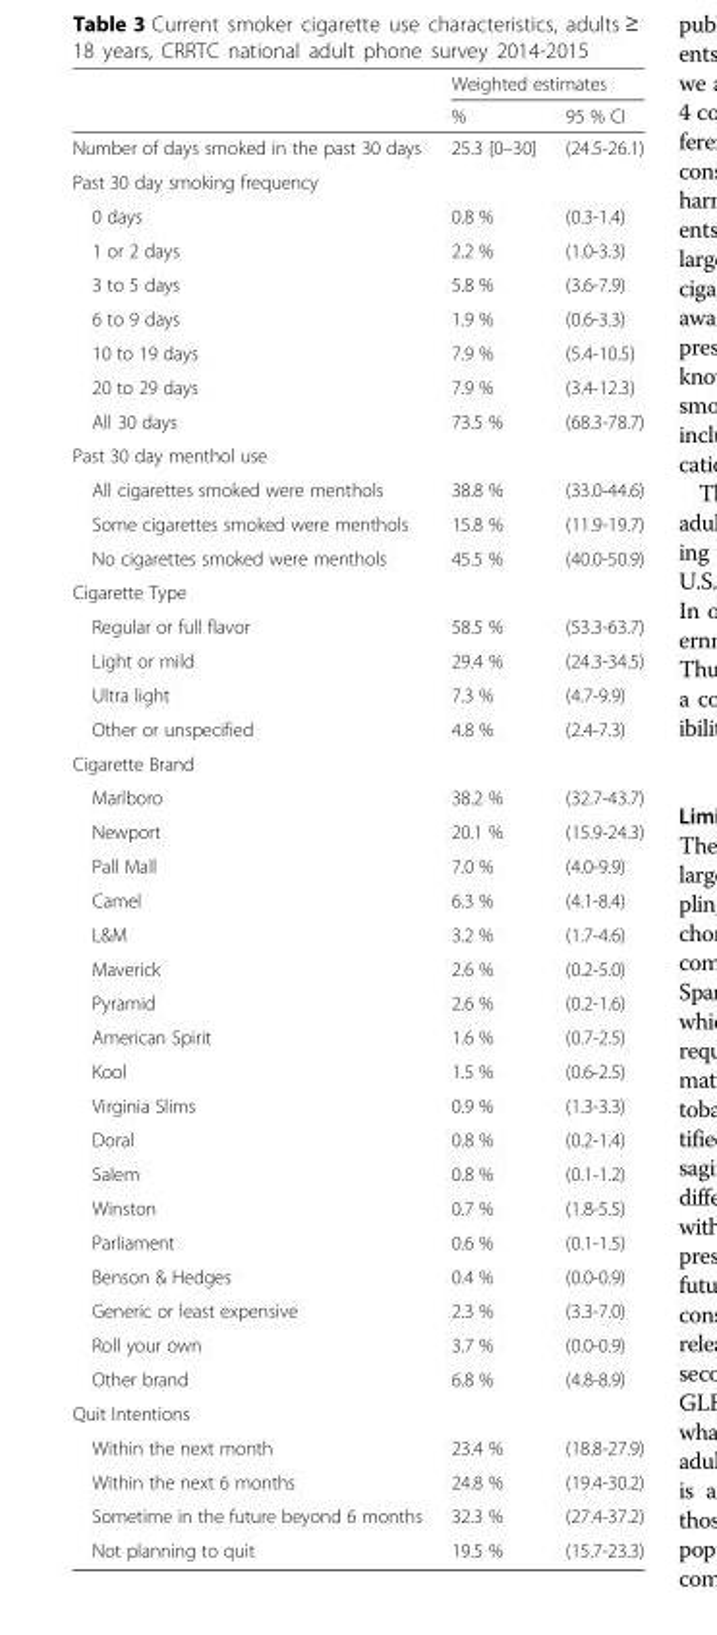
<table><thead><tr><td rowspan="2"></td><td colspan="2">Weighted estimates</td></tr><tr><td>%</td><td>95 % CI</td></tr></thead><tbody><tr><td>Number of days smoked in the past 30 days</td><td>25.3 [0–30]</td><td>(24.5-26.1)</td></tr><tr><td colspan="3">Past 30 day smoking frequency</td></tr><tr><td>0 days</td><td>0.8 %</td><td>(0.3-1.4)</td></tr><tr><td>1 or 2 days</td><td>2.2 %</td><td>(1.0-3.3)</td></tr><tr><td>3 to 5 days</td><td>5.8 %</td><td>(3.6-7.9)</td></tr><tr><td>6 to 9 days</td><td>1.9 %</td><td>(0.6-3.3)</td></tr><tr><td>10 to 19 days</td><td>7.9 %</td><td>(5.4-10.5)</td></tr><tr><td>20 to 29 days</td><td>7.9 %</td><td>(3.4-12.3)</td></tr><tr><td>All 30 days</td><td>73.5 %</td><td>(68.3-78.7)</td></tr><tr><td colspan="3">Past 30 day menthol use</td></tr><tr><td>All cigarettes smoked were menthols</td><td>38.8 %</td><td>(33.0-44.6)</td></tr><tr><td>Some cigarettes smoked were menthols</td><td>15.8 %</td><td>(11.9-19.7)</td></tr><tr><td>No cigarettes smoked were menthols</td><td>45.5 %</td><td>(40.0-50.9)</td></tr><tr><td colspan="3">Cigarette Type</td></tr><tr><td>Regular or full flavor</td><td>58.5 %</td><td>(53.3-63.7)</td></tr><tr><td>Light or mild</td><td>29.4 %</td><td>(24.3-34.5)</td></tr><tr><td>Ultra light</td><td>7.3 %</td><td>(4.7-9.9)</td></tr><tr><td>Other or unspecified</td><td>4.8 %</td><td>(2.4-7.3)</td></tr><tr><td colspan="3">Cigarette Brand</td></tr><tr><td>Marlboro</td><td>38.2 %</td><td>(32.7-43.7)</td></tr><tr><td>Newport</td><td>20.1 %</td><td>(15.9-24.3)</td></tr><tr><td>Pall Mall</td><td>7.0 %</td><td>(4.0-9.9)</td></tr><tr><td>Camel</td><td>6.3 %</td><td>(4.1-8.4)</td></tr><tr><td>L&amp;M</td><td>3.2 %</td><td>(1.7-4.6)</td></tr><tr><td>Maverick</td><td>2.6 %</td><td>(0.2-5.0)</td></tr><tr><td>Pyramid</td><td>2.6 %</td><td>(0.2-1.6)</td></tr><tr><td>American Spirit</td><td>1.6 %</td><td>(0.7-2.5)</td></tr><tr><td>Kool</td><td>1.5 %</td><td>(0.6-2.5)</td></tr><tr><td>Virginia Slims</td><td>0.9 %</td><td>(1.3-3.3)</td></tr><tr><td>Doral</td><td>0.8 %</td><td>(0.2-1.4)</td></tr><tr><td>Salem</td><td>0.8 %</td><td>(0.1-1.2)</td></tr><tr><td>Winston</td><td>0.7 %</td><td>(1.8-5.5)</td></tr><tr><td>Parliament</td><td>0.6 %</td><td>(0.1-1.5)</td></tr><tr><td>Benson &amp; Hedges</td><td>0.4 %</td><td>(0.0-0.9)</td></tr><tr><td>Generic or least expensive</td><td>2.3 %</td><td>(3.3-7.0)</td></tr><tr><td>Roll your own</td><td>3.7 %</td><td>(0.0-0.9)</td></tr><tr><td>Other brand</td><td>6.8 %</td><td>(4.8-8.9)</td></tr><tr><td colspan="3">Quit Intentions</td></tr><tr><td>Within the next month</td><td>23.4 %</td><td>(18.8-27.9)</td></tr><tr><td>Within the next 6 months</td><td>24.8 %</td><td>(19.4-30.2)</td></tr><tr><td>Sometime in the future beyond 6 months</td><td>32.3 %</td><td>(27.4-37.2)</td></tr><tr><td>Not planning to quit</td><td>19.5 %</td><td>(15.7-23.3)</td></tr></tbody></table>